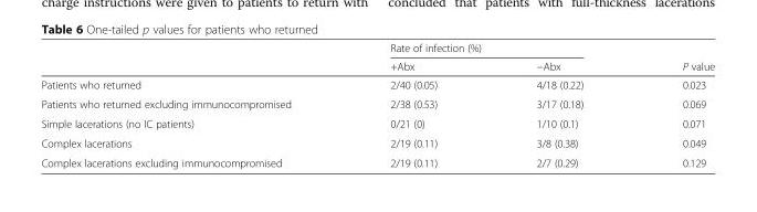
<table><thead><tr><td rowspan="2"></td><td colspan="2">Rate of infection (%)</td><td rowspan="2">P value</td></tr><tr><td>+Abx</td><td>−Abx</td></tr></thead><tbody><tr><td>Patients who returned</td><td>2/40 (0.05)</td><td>4/18 (0.22)</td><td>0.023</td></tr><tr><td>Patients who returned excluding immunocompromised</td><td>2/38 (0.53)</td><td>3/17 (0.18)</td><td>0.069</td></tr><tr><td>Simple lacerations (no IC patients)</td><td>0/21 (0)</td><td>1/10 (0.1)</td><td>0.071</td></tr><tr><td>Complex lacerations</td><td>2/19 (0.11)</td><td>3/8 (0.38)</td><td>0.049</td></tr><tr><td>Complex lacerations excluding immunocompromised</td><td>2/19 (0.11)</td><td>2/7 (0.29)</td><td>0.129</td></tr></tbody></table>